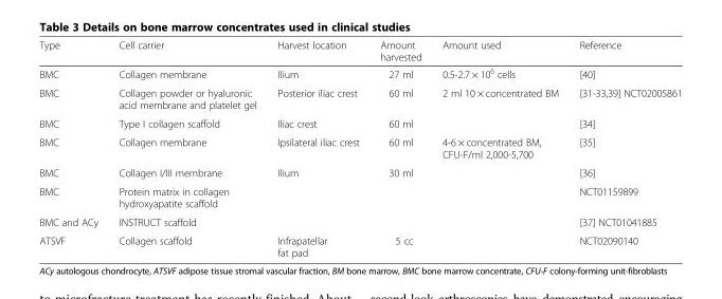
<table><thead><tr><td>Type</td><td>Cell carrier</td><td>Harvest location</td><td>Amount harvested</td><td>Amount used</td><td>Reference</td></tr></thead><tbody><tr><td>BMC</td><td>Collagen membrane</td><td>Ilium</td><td>27 ml</td><td>0.5-2.7 × 10<sup>6</sup> cells</td><td>[40]</td></tr><tr><td>BMC</td><td>Collagen powder or hyaluronic acid membrane and platelet gel</td><td>Posterior iliac crest</td><td>60 ml</td><td>2 ml 10 × concentrated BM</td><td>[31-33,39] NCT02005861</td></tr><tr><td>BMC</td><td>Type I collagen scaffold</td><td>Iliac crest</td><td>60 ml</td><td></td><td>[34]</td></tr><tr><td>BMC</td><td>Collagen membrane</td><td>Ipsilateral iliac crest</td><td>60 ml</td><td>4-6 × concentrated BM, CFU-F/ml 2,000-5,700</td><td>[35]</td></tr><tr><td>BMC</td><td>Collagen I/III membrane</td><td>Ilium</td><td>30 ml</td><td></td><td>[36]</td></tr><tr><td>BMC</td><td>Protein matrix in collagen hydroxyapatite scaffold</td><td></td><td></td><td></td><td>NCT01159899</td></tr><tr><td>BMC and ACy</td><td>INSTRUCT scaffold</td><td></td><td></td><td></td><td>[37] NCT01041885</td></tr><tr><td>ATSVF</td><td>Collagen scaffold</td><td>Infrapatellar fat pad</td><td>5 cc</td><td></td><td>NCT02090140</td></tr></tbody></table>